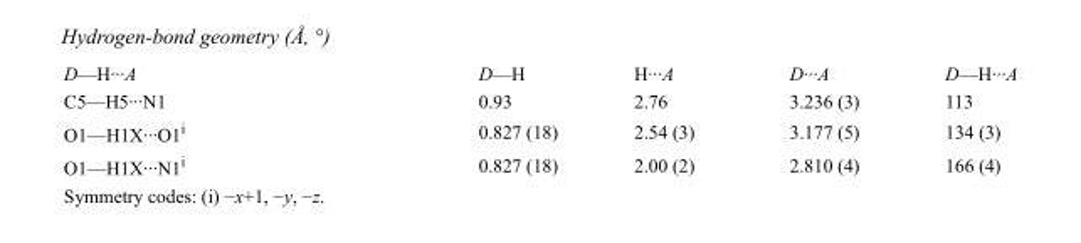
<table><tbody><tr><td>D—H···A</td><td>D—H</td><td>H···A</td><td>D···A</td><td>D—H···A</td></tr><tr><td>C5—H5···N1</td><td>0.93</td><td>2.76</td><td>3.236 (3)</td><td>113</td></tr><tr><td>O1—H1X···O1<sup>i</sup></td><td>0.827 (18)</td><td>2.54 (3)</td><td>3.177 (5)</td><td>134 (3)</td></tr><tr><td>O1—H1X···N1<sup>i</sup></td><td>0.827 (18)</td><td>2.00 (2)</td><td>2.810 (4)</td><td>166 (4)</td></tr></tbody></table>